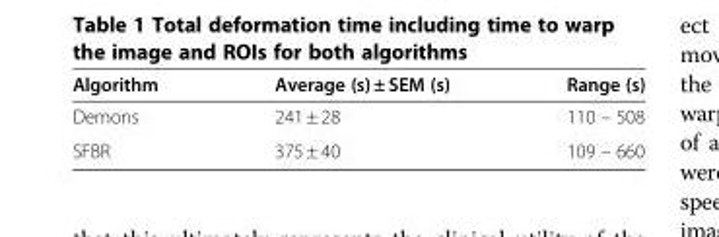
<table><thead><tr><td>Algorithm</td><td>Average (s) ± SEM (s)</td><td>Range (s)</td></tr></thead><tbody><tr><td>Demons</td><td>241 ± 28</td><td>110 – 508</td></tr><tr><td>SFBR</td><td>375 ± 40</td><td>109 – 660</td></tr></tbody></table>